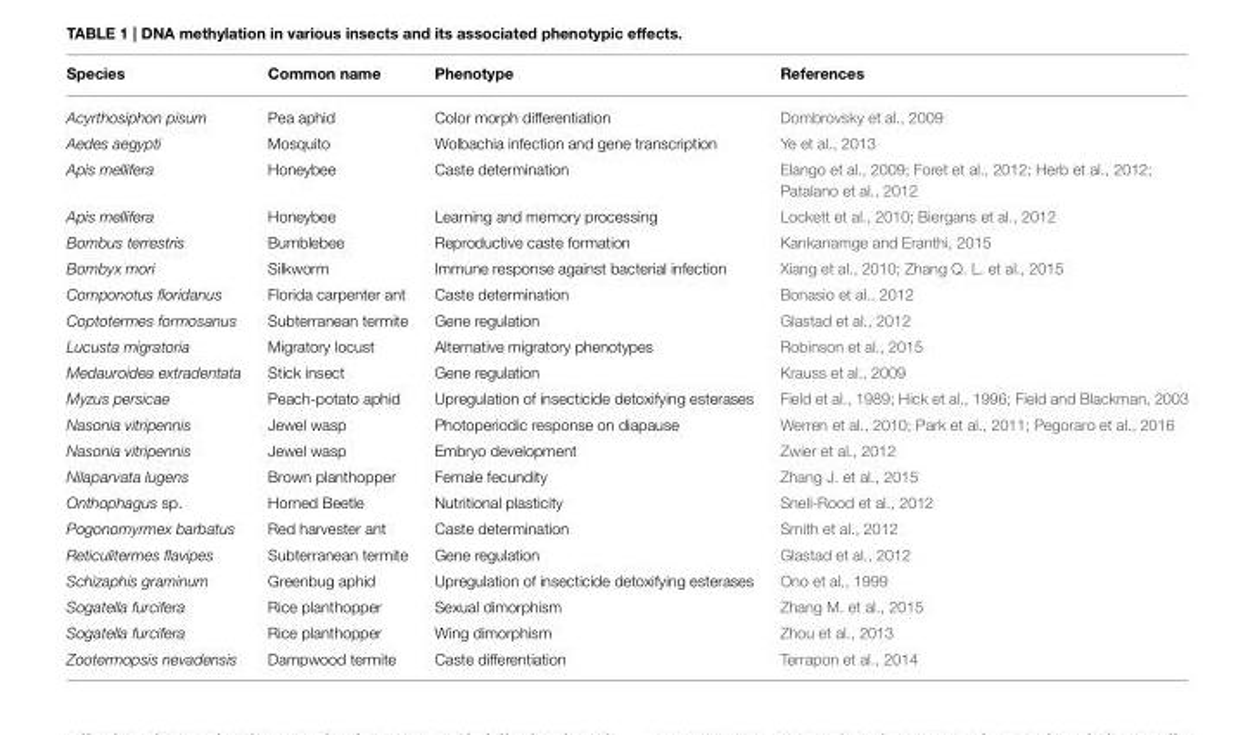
<table><thead><tr><td>Species</td><td>Common name</td><td>Phenotype</td><td>References</td></tr></thead><tbody><tr><td>Acyrthosiphon pisum</td><td>Pea aphid</td><td>Color morph differentiation</td><td>Dombrovsky et al., 2009</td></tr><tr><td>Aedes aegypti</td><td>Mosquito</td><td>Wolbachia infection and gene transcription</td><td>Ye et al., 2013</td></tr><tr><td>Apis mellifera</td><td>Honeybee</td><td>Caste determination</td><td>Elango et al., 2009; Foret et al., 2012; Herb et al., 2012; Patalano et al., 2012</td></tr><tr><td>Apis mellifera</td><td>Honeybee</td><td>Learning and memory processing</td><td>Lockett et al., 2010; Biergans et al., 2012</td></tr><tr><td>Bombus terrestris</td><td>Bumblebee</td><td>Reproductive caste formation</td><td>Kankanamge and Eranthi, 2015</td></tr><tr><td>Bombyx mori</td><td>Silkworm</td><td>Immune response against bacterial infection</td><td>Xiang et al., 2010; Zhang Q. L. et al., 2015</td></tr><tr><td>Componotus floridanus</td><td>Florida carpenter ant</td><td>Caste determination</td><td>Bonasio et al., 2012</td></tr><tr><td>Coptotermes formosanus</td><td>Subterranean termite</td><td>Gene regulation</td><td>Glastad et al., 2012</td></tr><tr><td>Lucusta migratoria</td><td>Migratory locust</td><td>Alternative migratory phenotypes</td><td>Robinson et al., 2015</td></tr><tr><td>Medauroidea extradentata</td><td>Stick insect</td><td>Gene regulation</td><td>Krauss et al., 2009</td></tr><tr><td>Myzus persicae</td><td>Peach-potato aphid</td><td>Upregulation of insecticide detoxifying esterases</td><td>Field et al., 1989; Hick et al., 1996; Field and Blackman, 2003</td></tr><tr><td>Nasonia vitripennis</td><td>Jewel wasp</td><td>Photoperiodic response on diapause</td><td>Werren et al., 2010; Park et al., 2011; Pegoraro et al., 2016</td></tr><tr><td>Nasonia vitripennis</td><td>Jewel wasp</td><td>Embryo development</td><td>Zwier et al., 2012</td></tr><tr><td>Nilaparvata lugens</td><td>Brown planthopper</td><td>Female fecundity</td><td>Zhang J. et al., 2015</td></tr><tr><td>Onthophagus sp.</td><td>Horned Beetle</td><td>Nutritional plasticity</td><td>Snell-Rood et al., 2012</td></tr><tr><td>Pogonomyrmex barbatus</td><td>Red harvester ant</td><td>Caste determination</td><td>Smith et al., 2012</td></tr><tr><td>Reticulitermes flavipes</td><td>Subterranean termite</td><td>Gene regulation</td><td>Glastad et al., 2012</td></tr><tr><td>Schizaphis graminum</td><td>Greenbug aphid</td><td>Upregulation of insecticide detoxifying esterases</td><td>Ono et al., 1999</td></tr><tr><td>Sogatella furcifera</td><td>Rice planthopper</td><td>Sexual dimorphism</td><td>Zhang M. et al., 2015</td></tr><tr><td>Sogatella furcifera</td><td>Rice planthopper</td><td>Wing dimorphism</td><td>Zhou et al., 2013</td></tr><tr><td>Zootermopsis nevadensis</td><td>Dampwood termite</td><td>Caste differentiation</td><td>Terrapon et al., 2014</td></tr></tbody></table>